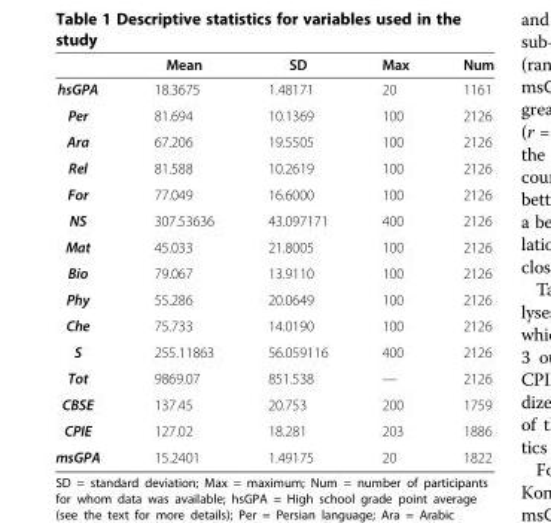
<table><thead><tr><td></td><td>Mean</td><td>SD</td><td>Max</td><td>Num</td></tr></thead><tbody><tr><td>hsGPA</td><td>18.3675</td><td>1.48171</td><td>20</td><td>1161</td></tr><tr><td>Per</td><td>81.694</td><td>10.1369</td><td>100</td><td>2126</td></tr><tr><td>Ara</td><td>67.206</td><td>19.5505</td><td>100</td><td>2126</td></tr><tr><td>Rel</td><td>81.588</td><td>10.2619</td><td>100</td><td>2126</td></tr><tr><td>For</td><td>77.049</td><td>16.6000</td><td>100</td><td>2126</td></tr><tr><td>NS</td><td>307.53636</td><td>43.097171</td><td>400</td><td>2126</td></tr><tr><td>Mat</td><td>45.033</td><td>21.8005</td><td>100</td><td>2126</td></tr><tr><td>Bio</td><td>79.067</td><td>13.9110</td><td>100</td><td>2126</td></tr><tr><td>Phy</td><td>55.286</td><td>20.0649</td><td>100</td><td>2126</td></tr><tr><td>Che</td><td>75.733</td><td>14.0190</td><td>100</td><td>2126</td></tr><tr><td>S</td><td>255.11863</td><td>56.059116</td><td>400</td><td>2126</td></tr><tr><td>Tot</td><td>9869.07</td><td>851.538</td><td>—</td><td>2126</td></tr><tr><td>CBSE</td><td>137.45</td><td>20.753</td><td>200</td><td>1759</td></tr><tr><td>CPIE</td><td>127.02</td><td>18.281</td><td>203</td><td>1886</td></tr><tr><td>msGPA</td><td>15.2401</td><td>1.49175</td><td>20</td><td>1822</td></tr></tbody></table>